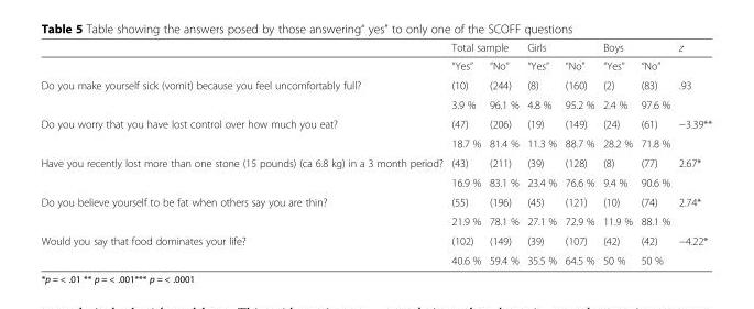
<table><thead><tr><td rowspan="2"></td><td colspan="2">Total sample</td><td colspan="2">Girls</td><td colspan="2">Boys</td><td rowspan="2">z</td></tr><tr><td>“Yes”</td><td>“No”</td><td>“Yes”</td><td>“No”</td><td>“Yes”</td><td>“No”</td></tr></thead><tbody><tr><td rowspan="2">Do you make yourself sick (vomit) because you feel uncomfortably full?</td><td>(10)</td><td>(244)</td><td>(8)</td><td>(160)</td><td>(2)</td><td>(83)</td><td rowspan="2">.93</td></tr><tr><td>3.9 %</td><td>96.1 %</td><td>4.8 %</td><td>95.2 %</td><td>2.4 %</td><td>97.6 %</td></tr><tr><td rowspan="2">Do you worry that you have lost control over how much you eat?</td><td>(47)</td><td>(206)</td><td>(19)</td><td>(149)</td><td>(24)</td><td>(61)</td><td rowspan="2">−3.39**</td></tr><tr><td>18.7 %</td><td>81.4 %</td><td>11.3 %</td><td>88.7 %</td><td>28.2 %</td><td>71.8 %</td></tr><tr><td rowspan="2">Have you recently lost more than one stone (15 pounds) (ca 6.8 kg) in a 3 month period?</td><td>(43)</td><td>(211)</td><td>(39)</td><td>(128)</td><td>(8)</td><td>(77)</td><td rowspan="2">2.67*</td></tr><tr><td>16.9 %</td><td>83.1 %</td><td>23.4 %</td><td>76.6 %</td><td>9.4 %</td><td>90.6 %</td></tr><tr><td rowspan="2">Do you believe yourself to be fat when others say you are thin?</td><td>(55)</td><td>(196)</td><td>(45)</td><td>(121)</td><td>(10)</td><td>(74)</td><td rowspan="2">2.74*</td></tr><tr><td>21.9 %</td><td>78.1 %</td><td>27.1 %</td><td>72.9 %</td><td>11.9 %</td><td>88.1 %</td></tr><tr><td rowspan="2">Would you say that food dominates your life?</td><td>(102)</td><td>(149)</td><td>(39)</td><td>(107)</td><td>(42)</td><td>(42)</td><td rowspan="2">−4.22*</td></tr><tr><td>40.6 %</td><td>59.4 %</td><td>35.5 %</td><td>64.5 %</td><td>50 %</td><td>50 %</td></tr></tbody></table>